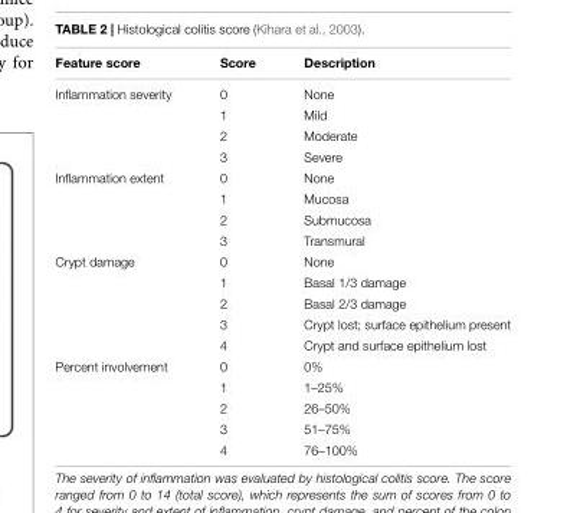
<table><thead><tr><td>Feature score</td><td>Score</td><td>Description</td></tr></thead><tbody><tr><td rowspan="4">Inflammation severity</td><td>0</td><td>None</td></tr><tr><td>1</td><td>Mild</td></tr><tr><td>2</td><td>Moderate</td></tr><tr><td>3</td><td>Severe</td></tr><tr><td rowspan="4">Inflammation extent</td><td>0</td><td>None</td></tr><tr><td>1</td><td>Mucosa</td></tr><tr><td>2</td><td>Submucosa</td></tr><tr><td>3</td><td>Transmural</td></tr><tr><td rowspan="5">Crypt damage</td><td>0</td><td>None</td></tr><tr><td>1</td><td>Basal 1/3 damage</td></tr><tr><td>2</td><td>Basal 2/3 damage</td></tr><tr><td>3</td><td>Crypt lost; surface epithelium present</td></tr><tr><td>4</td><td>Crypt and surface epithelium lost</td></tr><tr><td rowspan="5">Percent involvement</td><td>0</td><td>0%</td></tr><tr><td>1</td><td>1–25%</td></tr><tr><td>2</td><td>26–50%</td></tr><tr><td>3</td><td>51–75%</td></tr><tr><td>4</td><td>76–100%</td></tr></tbody></table>